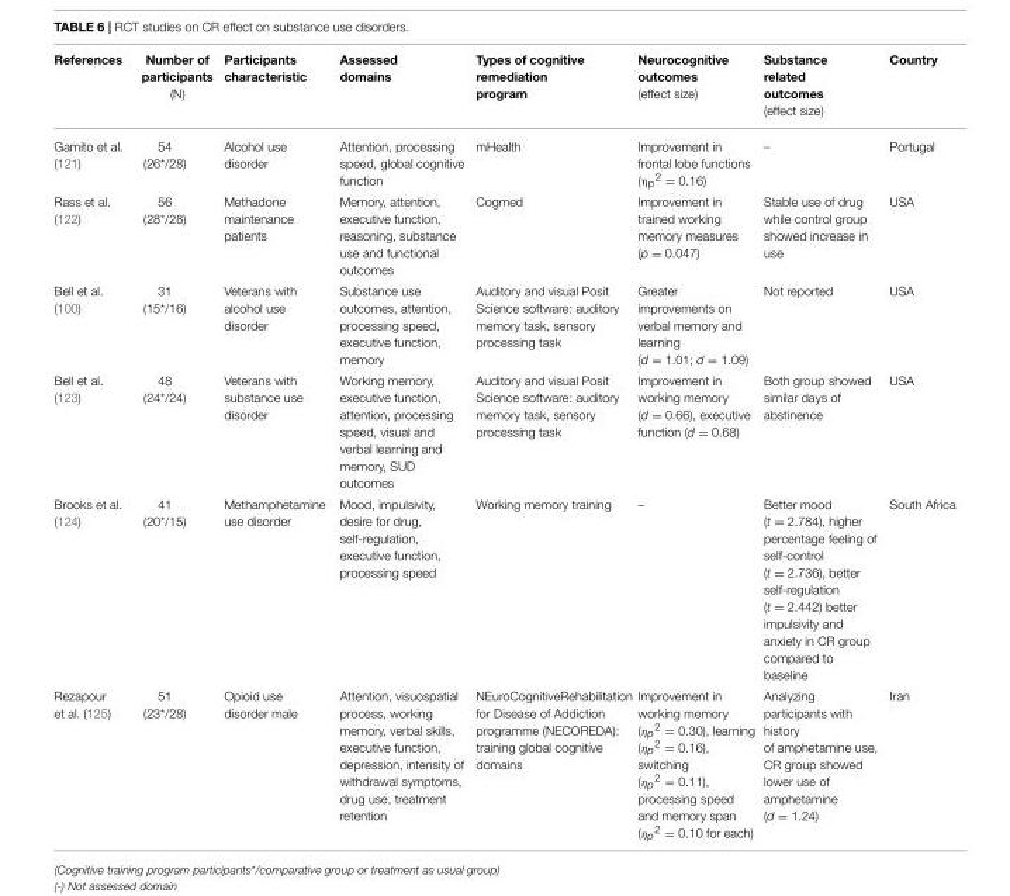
<table><thead><tr><td>References</td><td>Number of participants (N)</td><td>Participants characteristic</td><td>Assessed domains</td><td>Types of cognitive remediation program</td><td>Neurocognitive outcomes (effect size)</td><td>Substance related outcomes (effect size)</td><td>Country</td></tr></thead><tbody><tr><td>Gamito et al. (121)</td><td>54 (26*/28)</td><td>Alcohol use disorder</td><td>Attention, processing speed, global cognitive function</td><td>mHealth</td><td>Improvement in frontal lobe functions (η<sub>p</sub><sup>2</sup> = 0.16)</td><td>–</td><td>Portugal</td></tr><tr><td>Rass et al. (122)</td><td>56 (28*/28)</td><td>Methadone maintenance patients</td><td>Memory, attention, executive function, reasoning, substance use and functional outcomes</td><td>Cogmed</td><td>Improvement in trained working memory measures (p = 0.047)</td><td>Stable use of drug while control group showed increase in use</td><td>USA</td></tr><tr><td>Bell et al. (100)</td><td>31 (15*/16)</td><td>Veterans with alcohol use disorder</td><td>Substance use outcomes, attention, processing speed, executive function, memory</td><td>Auditory and visual Posit Science software: auditory memory task, sensory processing task</td><td>Greater improvements on verbal memory and learning (d = 1.01; d = 1.09)</td><td>Not reported</td><td>USA</td></tr><tr><td>Bell et al. (123)</td><td>48 (24*/24)</td><td>Veterans with substance use disorder</td><td>Working memory, executive function, attention, processing speed, visual and verbal learning and memory, SUD outcomes</td><td>Auditory and visual Posit Science software: auditory memory task, sensory processing task</td><td>Improvement in working memory (d = 0.66), executive function (d = 0.68)</td><td>Both group showed similar days of abstinence</td><td>USA</td></tr><tr><td>Brooks et al. (124)</td><td>41 (20*/15)</td><td>Methamphetamine use disorder</td><td>Mood, impulsivity, desire for drug, self-regulation, executive function, processing speed</td><td>Working memory training</td><td>–</td><td>Better mood (t = 2.784), higher percentage feeling of self-control (t = 2.736), better self-regulation (t = 2.442) better impulsivity and anxiety in CR group compared to baseline</td><td>South Africa</td></tr><tr><td>Rezapour et al. (125)</td><td>51 (23*/28)</td><td>Opioid use disorder male</td><td>Attention, visuospatial process, working memory, verbal skills, executive function, depression, intensity of withdrawal symptoms, drug use, treatment retention</td><td>NEuroCognitiveRehabilitation for Disease of Addiction programme (NECOREDA): training global cognitive domains</td><td>Improvement in working memory (ηp2 = 0.30), learning (ηp2 = 0.16), switching (ηp2 = 0.11), processing speed and memory span (ηp2 = 0.10 for each)</td><td>Analyzing participants with history of amphetamine use, CR group showed lower use of amphetamine (d = 1.24)</td><td>Iran</td></tr></tbody></table>